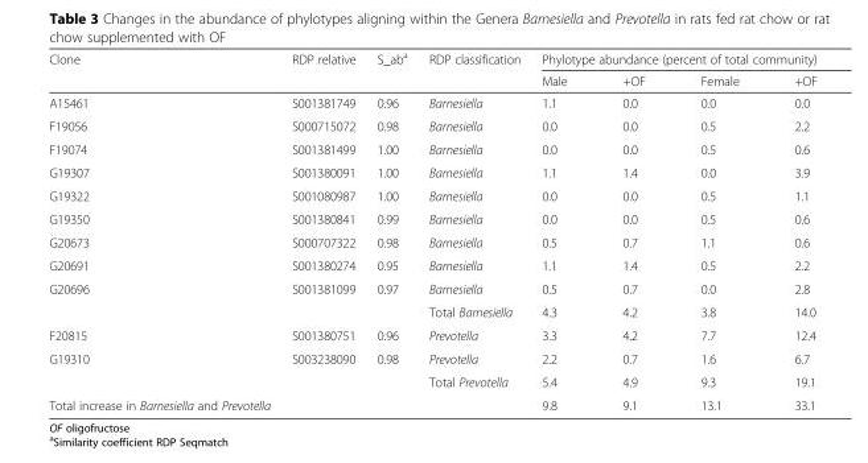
<table><thead><tr><td rowspan="2">Clone</td><td rowspan="2">RDP relative</td><td rowspan="2">S_ab<sup>a</sup></td><td rowspan="2">RDP classification</td><td colspan="4">Phylotype abundance (percent of total community)</td></tr><tr><td>Male</td><td>+OF</td><td>Female</td><td>+OF</td></tr></thead><tbody><tr><td>A15461</td><td>S001381749</td><td>0.96</td><td>Barnesiella</td><td>1.1</td><td>0.0</td><td>0.0</td><td>0.0</td></tr><tr><td>F19056</td><td>S000715072</td><td>0.98</td><td>Barnesiella</td><td>0.0</td><td>0.0</td><td>0.5</td><td>2.2</td></tr><tr><td>F19074</td><td>S001381499</td><td>1.00</td><td>Barnesiella</td><td>0.0</td><td>0.0</td><td>0.5</td><td>0.6</td></tr><tr><td>G19307</td><td>S001380091</td><td>1.00</td><td>Barnesiella</td><td>1.1</td><td>1.4</td><td>0.0</td><td>3.9</td></tr><tr><td>G19322</td><td>S001080987</td><td>1.00</td><td>Barnesiella</td><td>0.0</td><td>0.0</td><td>0.5</td><td>1.1</td></tr><tr><td>G19350</td><td>S001380841</td><td>0.99</td><td>Barnesiella</td><td>0.0</td><td>0.0</td><td>0.5</td><td>0.6</td></tr><tr><td>G20673</td><td>S000707322</td><td>0.98</td><td>Barnesiella</td><td>0.5</td><td>0.7</td><td>1.1</td><td>0.6</td></tr><tr><td>G20691</td><td>S001380274</td><td>0.95</td><td>Barnesiella</td><td>1.1</td><td>1.4</td><td>0.5</td><td>2.2</td></tr><tr><td rowspan="2">G20696</td><td>S001381099</td><td>0.97</td><td>Barnesiella</td><td>0.5</td><td>0.7</td><td>0.0</td><td>2.8</td></tr><tr><td></td><td></td><td>Total Barnesiella</td><td>4.3</td><td>4.2</td><td>3.8</td><td>14.0</td></tr><tr><td>F20815</td><td>S001380751</td><td>0.96</td><td>Prevotella</td><td>3.3</td><td>4.2</td><td>7.7</td><td>12.4</td></tr><tr><td rowspan="2">G19310</td><td>S003238090</td><td>0.98</td><td>Prevotella</td><td>2.2</td><td>0.7</td><td>1.6</td><td>6.7</td></tr><tr><td></td><td></td><td>Total Prevotella</td><td>5.4</td><td>4.9</td><td>9.3</td><td>19.1</td></tr><tr><td>Total increase in Barnesiella and Prevotella</td><td></td><td></td><td></td><td>9.8</td><td>9.1</td><td>13.1</td><td>33.1</td></tr></tbody></table>